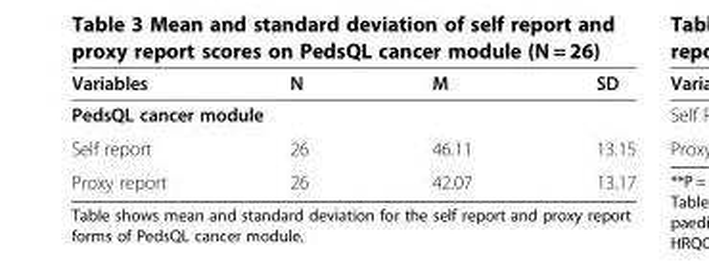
<table><thead><tr><td>Variables</td><td>N</td><td>M</td><td>SD</td></tr></thead><tbody><tr><td colspan="4">PedsQL cancer module</td></tr><tr><td>Self report</td><td>26</td><td>46.11</td><td>13.15</td></tr><tr><td>Proxy report</td><td>26</td><td>42.07</td><td>13.17</td></tr></tbody></table>